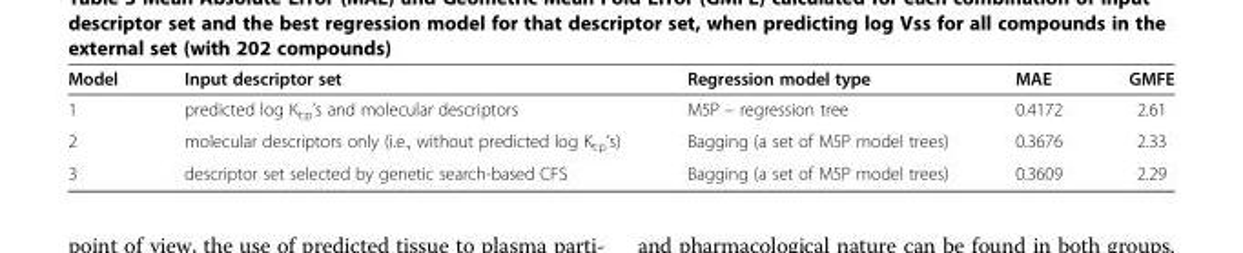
<table><thead><tr><td>Model</td><td>Input descriptor set</td><td>Regression model type</td><td>MAE</td><td>GMFE</td></tr></thead><tbody><tr><td>1</td><td>predicted log K<sub>t:p</sub>’s and molecular descriptors</td><td>M5P – regression tree</td><td>0.4172</td><td>2.61</td></tr><tr><td>2</td><td>molecular descriptors only (i.e., without predicted log K<sub>t:p</sub>’s)</td><td>Bagging (a set of M5P model trees)</td><td>0.3676</td><td>2.33</td></tr><tr><td>3</td><td>descriptor set selected by genetic search-based CFS</td><td>Bagging (a set of M5P model trees)</td><td>0.3609</td><td>2.29</td></tr></tbody></table>